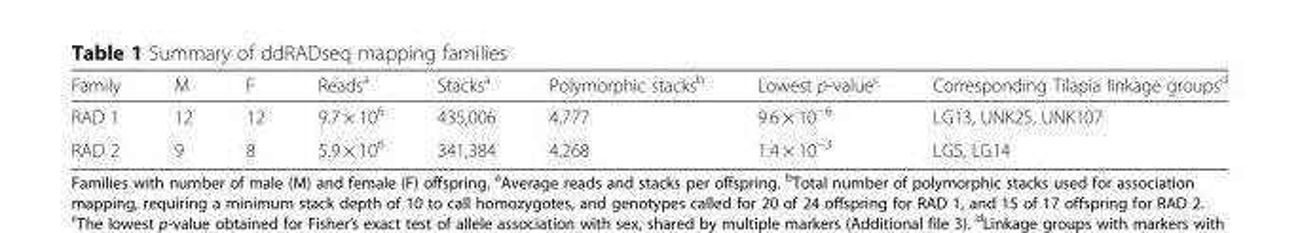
<table><thead><tr><td>Family</td><td>M</td><td>F</td><td>Reads<sup>a</sup></td><td>Stacks<sup>a</sup></td><td>Polymorphic stacks<sup>b</sup></td><td>Lowest p-value<sup>c</sup></td><td>Corresponding Tilapia linkage groups<sup>d</sup></td></tr></thead><tbody><tr><td>RAD 1</td><td>12</td><td>12</td><td>9.7 × 10<sup>6</sup></td><td>435,006</td><td>4,777</td><td>9.6 × 10<sup>−6</sup></td><td>LG13, UNK25, UNK107</td></tr><tr><td>RAD 2</td><td>9</td><td>8</td><td>5.9 × 10<sup>6</sup></td><td>341,384</td><td>4,268</td><td>1.4 × 10<sup>−3</sup></td><td>LG5, LG14</td></tr></tbody></table>